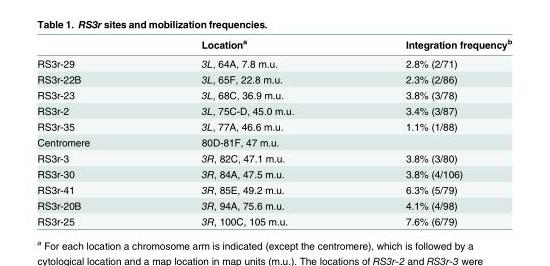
<table><thead><tr><td></td><td>Location<sup>a</sup></td><td>Integration frequency<sup>b</sup></td></tr></thead><tbody><tr><td>RS3r-29</td><td>3L, 64A, 7.8 m.u.</td><td>2.8% (2/71)</td></tr><tr><td>RS3r-22B</td><td>3L, 65F, 22.8 m.u.</td><td>2.3% (2/86)</td></tr><tr><td>RS3r-23</td><td>3L, 68C, 36.9 m.u.</td><td>3.8% (3/78)</td></tr><tr><td>RS3r-2</td><td>3L, 75C-D, 45.0 m.u.</td><td>3.4% (3/87)</td></tr><tr><td>RS3r-35</td><td>3L, 77A, 46.6 m.u.</td><td>1.1% (1/88)</td></tr><tr><td>Centromere</td><td>80D-81F, 47 m.u.</td><td></td></tr><tr><td>RS3r-3</td><td>3R, 82C, 47.1 m.u.</td><td>3.8% (3/80)</td></tr><tr><td>RS3r-30</td><td>3R, 84A, 47.5 m.u.</td><td>3.8% (4/106)</td></tr><tr><td>RS3r-41</td><td>3R, 85E, 49.2 m.u.</td><td>6.3% (5/79)</td></tr><tr><td>RS3r-20B</td><td>3R, 94A, 75.6 m.u.</td><td>4.1% (4/98)</td></tr><tr><td>RS3r-25</td><td>3R, 100C, 105 m.u.</td><td>7.6% (6/79)</td></tr></tbody></table>